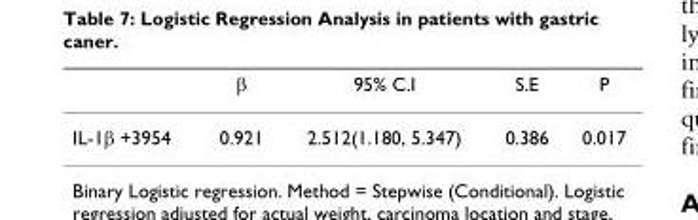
<table><thead><tr><td></td><td>β</td><td>95% C.I</td><td>S.E</td><td>P</td></tr></thead><tbody><tr><td>IL-1β +3954</td><td>0.921</td><td>2.512(1.180, 5.347)</td><td>0.386</td><td>0.017</td></tr></tbody></table>